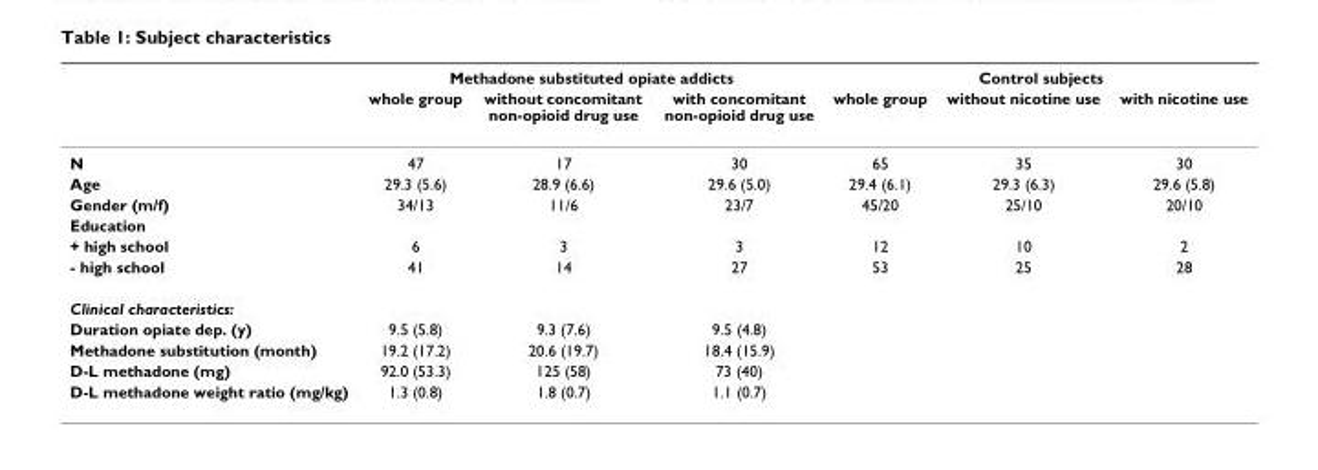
<table><thead><tr><td rowspan="2"></td><td colspan="3">Methadone substituted opiate addicts</td><td colspan="3">Control subjects</td></tr><tr><td>whole group</td><td>without concomitant non-opioid drug use</td><td>with concomitant non-opioid drug use</td><td>whole group</td><td>without nicotine use</td><td>with nicotine use</td></tr></thead><tbody><tr><td>N</td><td>47</td><td>17</td><td>30</td><td>65</td><td>35</td><td>30</td></tr><tr><td>Age</td><td>29.3 (5.6)</td><td>28.9 (6.6)</td><td>29.6 (5.0)</td><td>29.4 (6.1)</td><td>29.3 (6.3)</td><td>29.6 (5.8)</td></tr><tr><td>Gender (m/f)</td><td>34/13</td><td>11/6</td><td>23/7</td><td>45/20</td><td>25/10</td><td>20/10</td></tr><tr><td colspan="7">Education</td></tr><tr><td>+ high school</td><td>6</td><td>3</td><td>3</td><td>12</td><td>10</td><td>2</td></tr><tr><td>- high school</td><td>41</td><td>14</td><td>27</td><td>53</td><td>25</td><td>28</td></tr><tr><td colspan="7">Clinical characteristics:</td></tr><tr><td>Duration opiate dep. (y)</td><td>9.5 (5.8)</td><td>9.3 (7.6)</td><td>9.5 (4.8)</td><td></td><td></td><td></td></tr><tr><td>Methadone substitution (month)</td><td>19.2 (17.2)</td><td>20.6 (19.7)</td><td>18.4 (15.9)</td><td></td><td></td><td></td></tr><tr><td>D-L methadone (mg)</td><td>92.0 (53.3)</td><td>125 (58)</td><td>73 (40)</td><td></td><td></td><td></td></tr><tr><td>D-L methadone weight ratio (mg/kg)</td><td>1.3 (0.8)</td><td>1.8 (0.7)</td><td>1.1 (0.7)</td><td></td><td></td><td></td></tr></tbody></table>